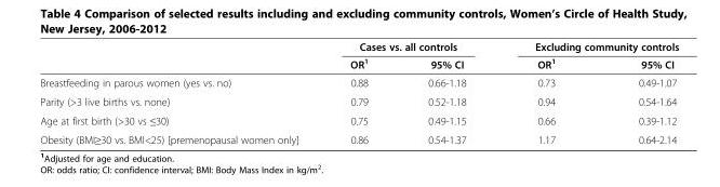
<table><thead><tr><td rowspan="2"></td><td colspan="2">Cases vs. all controls</td><td colspan="2">Excluding community controls</td></tr><tr><td>OR<sup>1</sup></td><td>95% CI</td><td>OR<sup>1</sup></td><td>95% CI</td></tr></thead><tbody><tr><td>Breastfeeding in parous women (yes vs. no)</td><td>0.88</td><td>0.66-1.18</td><td>0.73</td><td>0.49-1.07</td></tr><tr><td>Parity (&gt;3 live births vs. none)</td><td>0.79</td><td>0.52-1.18</td><td>0.94</td><td>0.54-1.64</td></tr><tr><td>Age at first birth (&gt;30 vs ≤30)</td><td>0.75</td><td>0.49-1.15</td><td>0.66</td><td>0.39-1.12</td></tr><tr><td>Obesity (BMI≥30 vs. BMI&lt;25) [premenopausal women only]</td><td>0.86</td><td>0.54-1.37</td><td>1.17</td><td>0.64-2.14</td></tr></tbody></table>